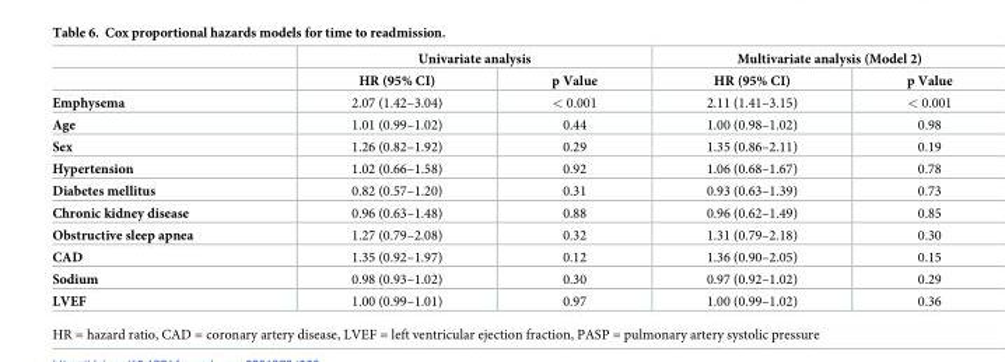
<table><thead><tr><td rowspan="2"></td><td colspan="2">Univariate analysis</td><td colspan="2">Multivariate analysis (Model 2)</td></tr><tr><td>HR (95% CI)</td><td>p Value</td><td>HR (95% CI)</td><td>p Value</td></tr></thead><tbody><tr><td>Emphysema</td><td>2.07 (1.42–3.04)</td><td>&lt; 0.001</td><td>2.11 (1.41–3.15)</td><td>&lt; 0.001</td></tr><tr><td>Age</td><td>1.01 (0.99–1.02)</td><td>0.44</td><td>1.00 (0.98–1.02)</td><td>0.98</td></tr><tr><td>Sex</td><td>1.26 (0.82–1.92)</td><td>0.29</td><td>1.35 (0.86–2.11)</td><td>0.19</td></tr><tr><td>Hypertension</td><td>1.02 (0.66–1.58)</td><td>0.92</td><td>1.06 (0.68–1.67)</td><td>0.78</td></tr><tr><td>Diabetes mellitus</td><td>0.82 (0.57–1.20)</td><td>0.31</td><td>0.93 (0.63–1.39)</td><td>0.73</td></tr><tr><td>Chronic kidney disease</td><td>0.96 (0.63–1.48)</td><td>0.88</td><td>0.96 (0.62–1.49)</td><td>0.85</td></tr><tr><td>Obstructive sleep apnea</td><td>1.27 (0.79–2.08)</td><td>0.32</td><td>1.31 (0.79–2.18)</td><td>0.30</td></tr><tr><td>CAD</td><td>1.35 (0.92–1.97)</td><td>0.12</td><td>1.36 (0.90–2.05)</td><td>0.15</td></tr><tr><td>Sodium</td><td>0.98 (0.93–1.02)</td><td>0.30</td><td>0.97 (0.92–1.02)</td><td>0.29</td></tr><tr><td>LVEF</td><td>1.00 (0.99–1.01)</td><td>0.97</td><td>1.00 (0.99–1.02)</td><td>0.36</td></tr></tbody></table>